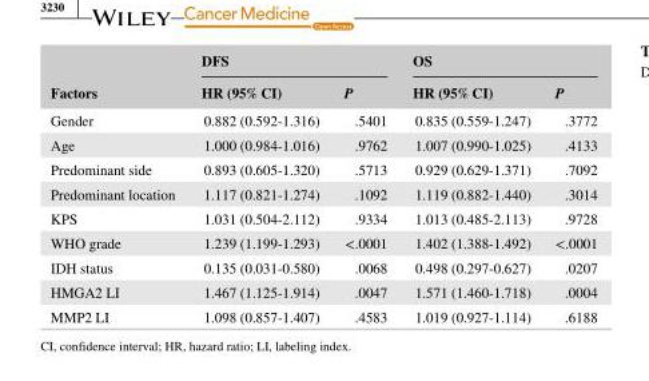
<table><thead><tr><td rowspan="2">Factors</td><td colspan="2">DFS</td><td colspan="2">OS</td></tr><tr><td>HR (95% CI)</td><td>P</td><td>HR (95% CI)</td><td>P</td></tr></thead><tbody><tr><td>Gender</td><td>0.882 (0.592- 1.316)</td><td>.5401</td><td>0.835 (0.559- 1.247)</td><td>.3772</td></tr><tr><td>Age</td><td>1.000 (0.984- 1.016)</td><td>.9762</td><td>1.007 (0.990- 1.025)</td><td>.4133</td></tr><tr><td>Predominant side</td><td>0.893 (0.605- 1.320)</td><td>.5713</td><td>0.929 (0.629- 1.371)</td><td>.7092</td></tr><tr><td>Predominant location</td><td>1.117 (0.821- 1.274)</td><td>.1092</td><td>1.119 (0.882- 1.440)</td><td>.3014</td></tr><tr><td>KPS</td><td>1.031 (0.504- 2.112)</td><td>.9334</td><td>1.013 (0.485- 2.113)</td><td>.9728</td></tr><tr><td>WHO grade</td><td>1.239 (1.199- 1.293)</td><td>&lt;.0001</td><td>1.402 (1.388- 1.492)</td><td>&lt;.0001</td></tr><tr><td>IDH status</td><td>0.135 (0.031- 0.580)</td><td>.0068</td><td>0.498 (0.297- 0.627)</td><td>.0207</td></tr><tr><td>HMGA2 LI</td><td>1.467 (1.125- 1.914)</td><td>.0047</td><td>1.571 (1.460- 1.718)</td><td>.0004</td></tr><tr><td>MMP2 LI</td><td>1.098 (0.857- 1.407)</td><td>.4583</td><td>1.019 (0.927- 1.114)</td><td>.6188</td></tr></tbody></table>